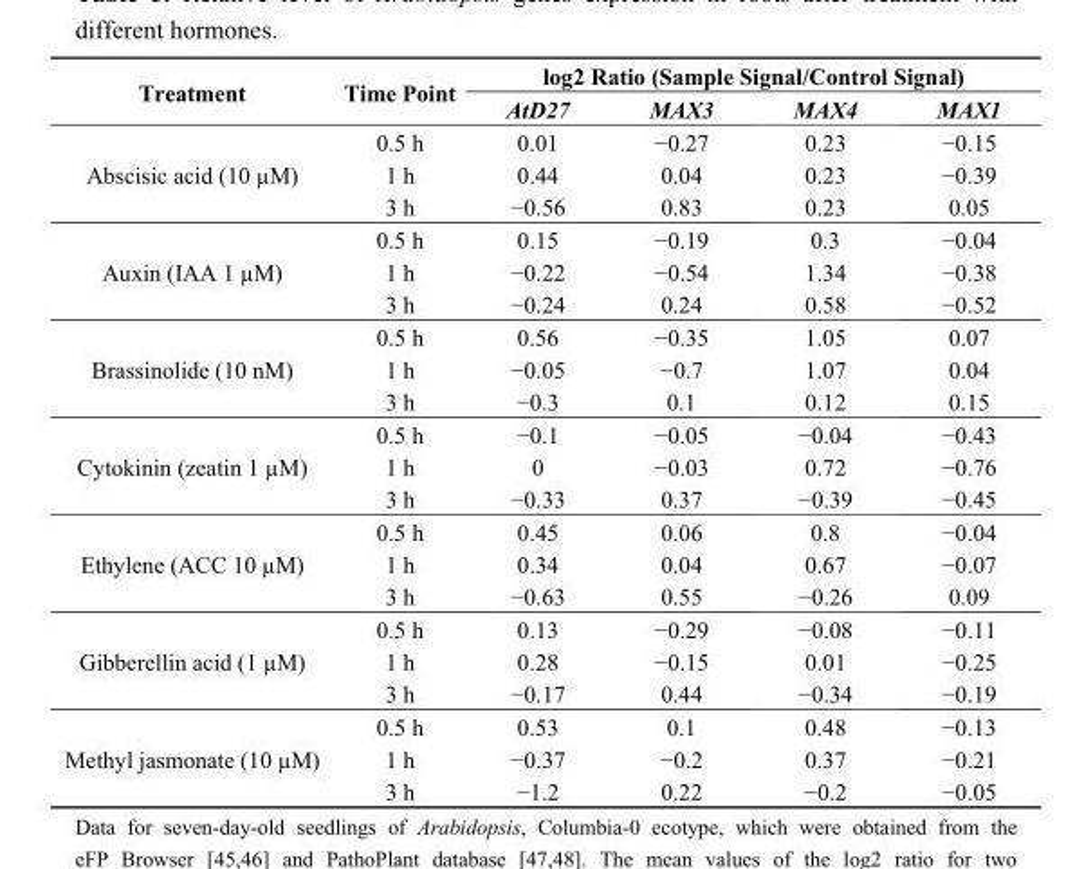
<table><thead><tr><td rowspan="2">Treatment</td><td rowspan="2">Time Point</td><td colspan="4">log2 Ratio (Sample Signal/Control Signal)</td></tr><tr><td>AtD27</td><td>MAX3</td><td>MAX4</td><td>MAX1</td></tr></thead><tbody><tr><td rowspan="3">Abscisic acid (10 µM)</td><td>0.5 h</td><td>0.01</td><td>−0.27</td><td>0.23</td><td>−0.15</td></tr><tr><td>1 h</td><td>0.44</td><td>0.04</td><td>0.23</td><td>−0.39</td></tr><tr><td>3 h</td><td>−0.56</td><td>0.83</td><td>0.23</td><td>0.05</td></tr><tr><td rowspan="3">Auxin (IAA 1 µM)</td><td>0.5 h</td><td>0.15</td><td>−0.19</td><td>0.3</td><td>−0.04</td></tr><tr><td>1 h</td><td>−0.22</td><td>−0.54</td><td>1.34</td><td>−0.38</td></tr><tr><td>3 h</td><td>−0.24</td><td>0.24</td><td>0.58</td><td>−0.52</td></tr><tr><td rowspan="3">Brassinolide (10 nM)</td><td>0.5 h</td><td>0.56</td><td>−0.35</td><td>1.05</td><td>0.07</td></tr><tr><td>1 h</td><td>−0.05</td><td>−0.7</td><td>1.07</td><td>0.04</td></tr><tr><td>3 h</td><td>−0.3</td><td>0.1</td><td>0.12</td><td>0.15</td></tr><tr><td rowspan="3">Cytokinin (zeatin 1 µM)</td><td>0.5 h</td><td>−0.1</td><td>−0.05</td><td>−0.04</td><td>−0.43</td></tr><tr><td>1 h</td><td>0</td><td>−0.03</td><td>0.72</td><td>−0.76</td></tr><tr><td>3 h</td><td>−0.33</td><td>0.37</td><td>−0.39</td><td>−0.45</td></tr><tr><td rowspan="3">Ethylene (ACC 10 µM)</td><td>0.5 h</td><td>0.45</td><td>0.06</td><td>0.8</td><td>−0.04</td></tr><tr><td>1 h</td><td>0.34</td><td>0.04</td><td>0.67</td><td>−0.07</td></tr><tr><td>3 h</td><td>−0.63</td><td>0.55</td><td>−0.26</td><td>0.09</td></tr><tr><td rowspan="3">Gibberellin acid (1 µM)</td><td>0.5 h</td><td>0.13</td><td>−0.29</td><td>−0.08</td><td>−0.11</td></tr><tr><td>1 h</td><td>0.28</td><td>−0.15</td><td>0.01</td><td>−0.25</td></tr><tr><td>3 h</td><td>−0.17</td><td>0.44</td><td>−0.34</td><td>−0.19</td></tr><tr><td rowspan="3">Methyl jasmonate (10 µM)</td><td>0.5 h</td><td>0.53</td><td>0.1</td><td>0.48</td><td>−0.13</td></tr><tr><td>1 h</td><td>−0.37</td><td>−0.2</td><td>0.37</td><td>−0.21</td></tr><tr><td>3 h</td><td>−1.2</td><td>0.22</td><td>−0.2</td><td>−0.05</td></tr></tbody></table>